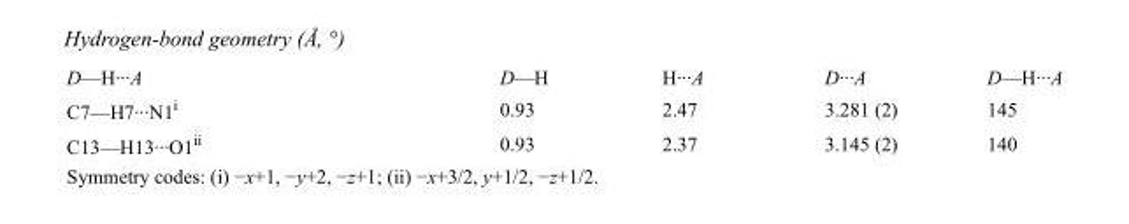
<table><tbody><tr><td>D—H···A</td><td>D—H</td><td>H···A</td><td>D···A</td><td>D—H···A</td></tr><tr><td>C7—H7···N1<sup>i</sup></td><td>0.93</td><td>2.47</td><td>3.281 (2)</td><td>145</td></tr><tr><td>C13—H13···O1<sup>ii</sup></td><td>0.93</td><td>2.37</td><td>3.145 (2)</td><td>140</td></tr></tbody></table>